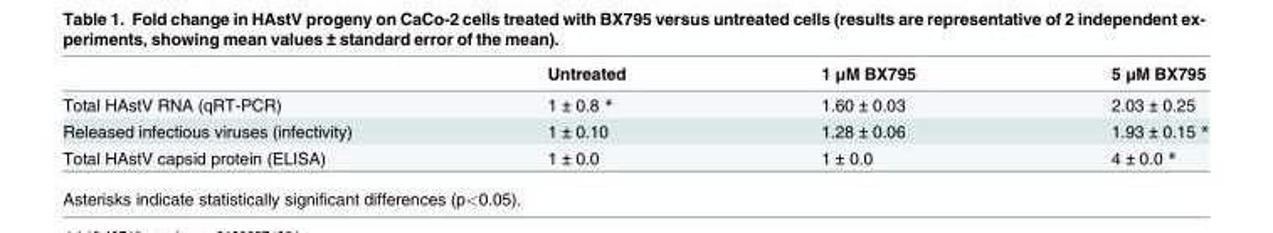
<table><thead><tr><td></td><td>Untreated</td><td>1 μM BX795</td><td>5 μM BX795</td></tr></thead><tbody><tr><td>Total HAstV RNA (qRT-PCR)</td><td>1 ± 0.8 *</td><td>1.60 ± 0.03</td><td>2.03 ± 0.25</td></tr><tr><td>Released infectious viruses (infectivity)</td><td>1 ± 0.10</td><td>1.28 ± 0.06</td><td>1.93 ± 0.15 *</td></tr><tr><td>Total HAstV capsid protein (ELISA)</td><td>1 ± 0.0</td><td>1 ± 0.0</td><td>4 ± 0.0 *</td></tr></tbody></table>